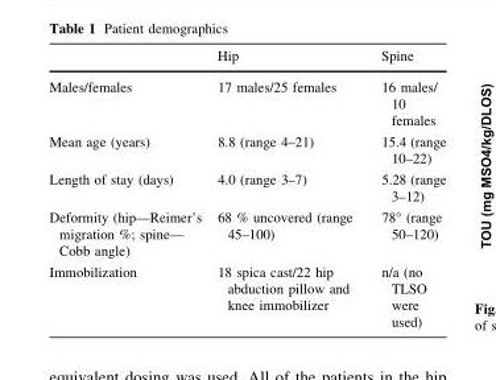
<table><thead><tr><td></td><td>Hip</td><td>Spine</td></tr></thead><tbody><tr><td>Males/females</td><td>17 males/25 females</td><td>16 males/ 10 females</td></tr><tr><td>Mean age (years)</td><td>8.8 (range 4–21)</td><td>15.4 (range 10–22)</td></tr><tr><td>Length of stay (days)</td><td>4.0 (range 3–7)</td><td>5.28 (range 3–12)</td></tr><tr><td>Deformity (hip—Reimer’s migration %; spine— Cobb angle)</td><td>68 % uncovered (range 45–100)</td><td>78° (range 50–120)</td></tr><tr><td>Immobilization</td><td>18 spica cast/22 hip abduction pillow and knee immobilizer</td><td>n/a (no TLSO were used)</td></tr></tbody></table>